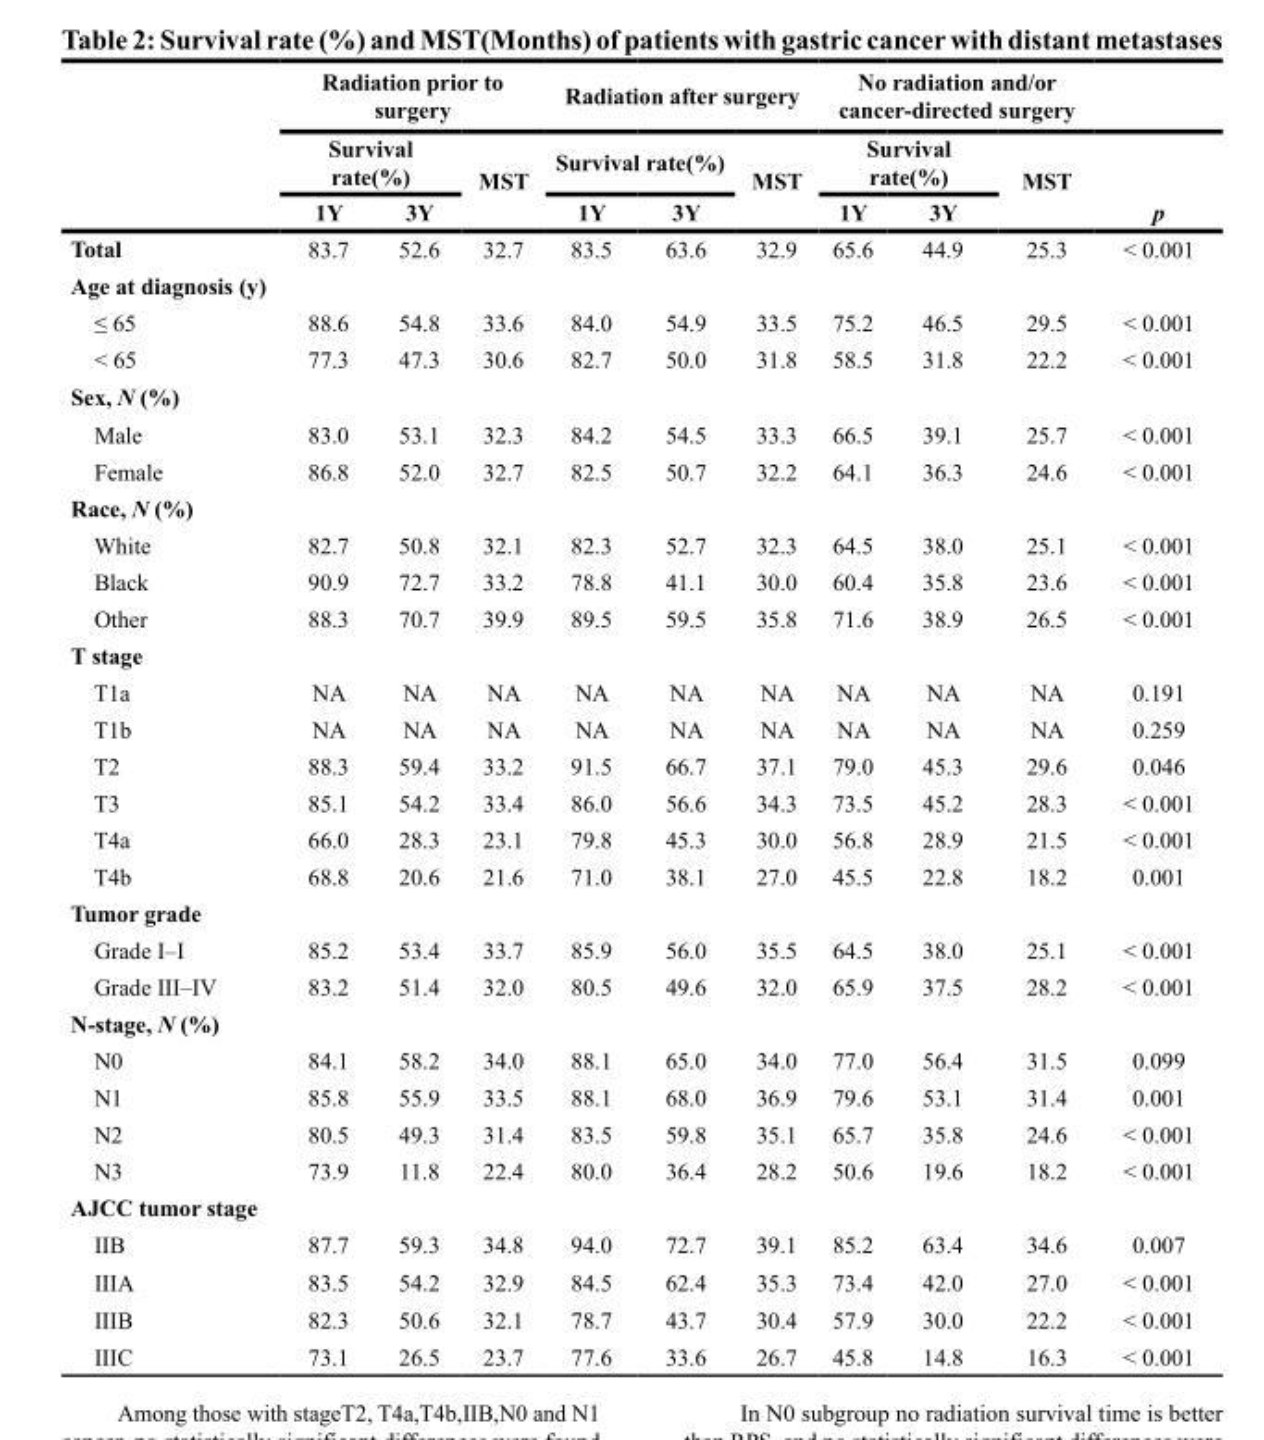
<table><thead><tr><td rowspan="3"></td><td colspan="3">Radiation prior to surgery</td><td colspan="3">Radiation after surgery</td><td colspan="3">No radiation and/or cancer-directed surgery</td><td rowspan="3">p</td></tr><tr><td colspan="2">Survival rate(%)</td><td rowspan="2">MST</td><td colspan="2">Survival rate(%)</td><td rowspan="2">MST</td><td colspan="2">Survival rate(%)</td><td rowspan="2">MST</td></tr><tr><td>1Y</td><td>3Y</td><td>1Y</td><td>3Y</td><td>1Y</td><td>3Y</td></tr></thead><tbody><tr><td>Total</td><td>83.7</td><td>52.6</td><td>32.7</td><td>83.5</td><td>63.6</td><td>32.9</td><td>65.6</td><td>44.9</td><td>25.3</td><td>&lt; 0.001</td></tr><tr><td colspan="11">Age at diagnosis (y)</td></tr><tr><td>≤ 65</td><td>88.6</td><td>54.8</td><td>33.6</td><td>84.0</td><td>54.9</td><td>33.5</td><td>75.2</td><td>46.5</td><td>29.5</td><td>&lt; 0.001</td></tr><tr><td>&lt; 65</td><td>77.3</td><td>47.3</td><td>30.6</td><td>82.7</td><td>50.0</td><td>31.8</td><td>58.5</td><td>31.8</td><td>22.2</td><td>&lt; 0.001</td></tr><tr><td colspan="11">Sex, N (%)</td></tr><tr><td>Male</td><td>83.0</td><td>53.1</td><td>32.3</td><td>84.2</td><td>54.5</td><td>33.3</td><td>66.5</td><td>39.1</td><td>25.7</td><td>&lt; 0.001</td></tr><tr><td>Female</td><td>86.8</td><td>52.0</td><td>32.7</td><td>82.5</td><td>50.7</td><td>32.2</td><td>64.1</td><td>36.3</td><td>24.6</td><td>&lt; 0.001</td></tr><tr><td colspan="11">Race, N (%)</td></tr><tr><td>White</td><td>82.7</td><td>50.8</td><td>32.1</td><td>82.3</td><td>52.7</td><td>32.3</td><td>64.5</td><td>38.0</td><td>25.1</td><td>&lt; 0.001</td></tr><tr><td>Black</td><td>90.9</td><td>72.7</td><td>33.2</td><td>78.8</td><td>41.1</td><td>30.0</td><td>60.4</td><td>35.8</td><td>23.6</td><td>&lt; 0.001</td></tr><tr><td>Other</td><td>88.3</td><td>70.7</td><td>39.9</td><td>89.5</td><td>59.5</td><td>35.8</td><td>71.6</td><td>38.9</td><td>26.5</td><td>&lt; 0.001</td></tr><tr><td colspan="11">T stage</td></tr><tr><td>T1a</td><td>NA</td><td>NA</td><td>NA</td><td>NA</td><td>NA</td><td>NA</td><td>NA</td><td>NA</td><td>NA</td><td>0.191</td></tr><tr><td>T1b</td><td>NA</td><td>NA</td><td>NA</td><td>NA</td><td>NA</td><td>NA</td><td>NA</td><td>NA</td><td>NA</td><td>0.259</td></tr><tr><td>T2</td><td>88.3</td><td>59.4</td><td>33.2</td><td>91.5</td><td>66.7</td><td>37.1</td><td>79.0</td><td>45.3</td><td>29.6</td><td>0.046</td></tr><tr><td>T3</td><td>85.1</td><td>54.2</td><td>33.4</td><td>86.0</td><td>56.6</td><td>34.3</td><td>73.5</td><td>45.2</td><td>28.3</td><td>&lt; 0.001</td></tr><tr><td>T4a</td><td>66.0</td><td>28.3</td><td>23.1</td><td>79.8</td><td>45.3</td><td>30.0</td><td>56.8</td><td>28.9</td><td>21.5</td><td>&lt; 0.001</td></tr><tr><td>T4b</td><td>68.8</td><td>20.6</td><td>21.6</td><td>71.0</td><td>38.1</td><td>27.0</td><td>45.5</td><td>22.8</td><td>18.2</td><td>0.001</td></tr><tr><td colspan="11">Tumor grade</td></tr><tr><td>Grade I–I</td><td>85.2</td><td>53.4</td><td>33.7</td><td>85.9</td><td>56.0</td><td>35.5</td><td>64.5</td><td>38.0</td><td>25.1</td><td>&lt; 0.001</td></tr><tr><td>Grade III–IV</td><td>83.2</td><td>51.4</td><td>32.0</td><td>80.5</td><td>49.6</td><td>32.0</td><td>65.9</td><td>37.5</td><td>28.2</td><td>&lt; 0.001</td></tr><tr><td colspan="11">N-stage, N (%)</td></tr><tr><td>N0</td><td>84.1</td><td>58.2</td><td>34.0</td><td>88.1</td><td>65.0</td><td>34.0</td><td>77.0</td><td>56.4</td><td>31.5</td><td>0.099</td></tr><tr><td>N1</td><td>85.8</td><td>55.9</td><td>33.5</td><td>88.1</td><td>68.0</td><td>36.9</td><td>79.6</td><td>53.1</td><td>31.4</td><td>0.001</td></tr><tr><td>N2</td><td>80.5</td><td>49.3</td><td>31.4</td><td>83.5</td><td>59.8</td><td>35.1</td><td>65.7</td><td>35.8</td><td>24.6</td><td>&lt; 0.001</td></tr><tr><td>N3</td><td>73.9</td><td>11.8</td><td>22.4</td><td>80.0</td><td>36.4</td><td>28.2</td><td>50.6</td><td>19.6</td><td>18.2</td><td>&lt; 0.001</td></tr><tr><td colspan="11">AJCC tumor stage</td></tr><tr><td>IIB</td><td>87.7</td><td>59.3</td><td>34.8</td><td>94.0</td><td>72.7</td><td>39.1</td><td>85.2</td><td>63.4</td><td>34.6</td><td>0.007</td></tr><tr><td>IIIA</td><td>83.5</td><td>54.2</td><td>32.9</td><td>84.5</td><td>62.4</td><td>35.3</td><td>73.4</td><td>42.0</td><td>27.0</td><td>&lt; 0.001</td></tr><tr><td>IIIB</td><td>82.3</td><td>50.6</td><td>32.1</td><td>78.7</td><td>43.7</td><td>30.4</td><td>57.9</td><td>30.0</td><td>22.2</td><td>&lt; 0.001</td></tr><tr><td>IIIC</td><td>73.1</td><td>26.5</td><td>23.7</td><td>77.6</td><td>33.6</td><td>26.7</td><td>45.8</td><td>14.8</td><td>16.3</td><td>&lt; 0.001</td></tr></tbody></table>